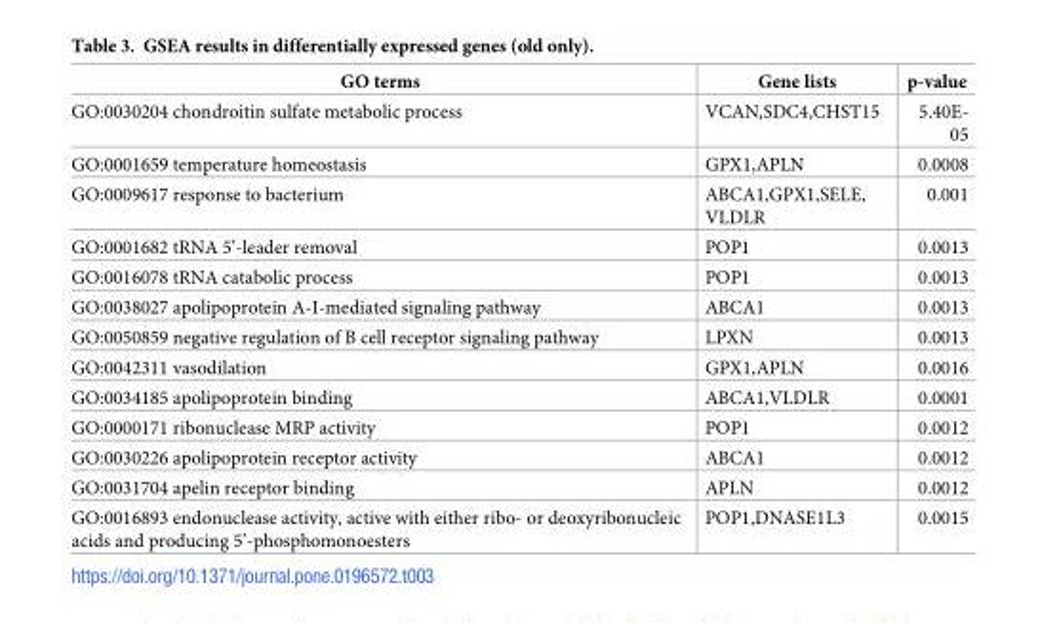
<table><thead><tr><td>GO terms</td><td>Gene lists</td><td>p-value</td></tr></thead><tbody><tr><td>GO:0030204 chondroitin sulfate metabolic process</td><td>VCAN,SDC4,CHST15</td><td>5.40E- 05</td></tr><tr><td>GO:0001659 temperature homeostasis</td><td>GPX1,APLN</td><td>0.0008</td></tr><tr><td>GO:0009617 response to bacterium</td><td>ABCA1,GPX1,SELE, VLDLR</td><td>0.001</td></tr><tr><td>GO:0001682 tRNA 5’-leader removal</td><td>POP1</td><td>0.0013</td></tr><tr><td>GO:0016078 tRNA catabolic process</td><td>POP1</td><td>0.0013</td></tr><tr><td>GO:0038027 apolipoprotein A-I-mediated signaling pathway</td><td>ABCA1</td><td>0.0013</td></tr><tr><td>GO:0050859 negative regulation of B cell receptor signaling pathway</td><td>LPXN</td><td>0.0013</td></tr><tr><td>GO:0042311 vasodilation</td><td>GPX1,APLN</td><td>0.0016</td></tr><tr><td>GO:0034185 apolipoprotein binding</td><td>ABCA1,VLDLR</td><td>0.0001</td></tr><tr><td>GO:0000171 ribonuclease MRP activity</td><td>POP1</td><td>0.0012</td></tr><tr><td>GO:0030226 apolipoprotein receptor activity</td><td>ABCA1</td><td>0.0012</td></tr><tr><td>GO:0031704 apelin receptor binding</td><td>APLN</td><td>0.0012</td></tr><tr><td>GO:0016893 endonuclease activity, active with either ribo- or deoxyribonucleic acids and producing 5’-phosphomonoesters</td><td>POP1,DNASE1L3</td><td>0.0015</td></tr></tbody></table>